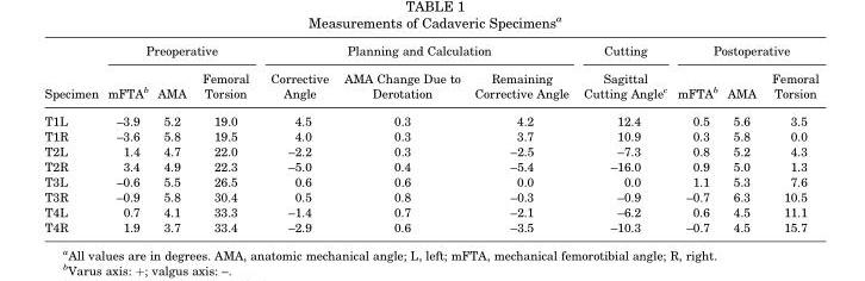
<table><thead><tr><td rowspan="2">Specimen</td><td colspan="3">Preoperative</td><td colspan="3">Planning and Calculation</td><td rowspan="2">Cutting Sagittal Cutting Angle<sup>c</sup></td><td colspan="3">Postoperative</td></tr><tr><td>mFTA<sup>b</sup></td><td>AMA</td><td>Femoral Torsion</td><td>Corrective Angle</td><td>AMA Change Due to Derotation</td><td>Remaining Corrective Angle</td><td>mFTA<sup>b</sup></td><td>AMA</td><td>Femoral Torsion</td></tr></thead><tbody><tr><td>T1L</td><td>–3.9</td><td>5.2</td><td>19.0</td><td>4.5</td><td>0.3</td><td>4.2</td><td>12.4</td><td>0.5</td><td>5.6</td><td>3.5</td></tr><tr><td>T1R</td><td>–3.6</td><td>5.8</td><td>19.5</td><td>4.0</td><td>0.3</td><td>3.7</td><td>10.9</td><td>0.3</td><td>5.8</td><td>0.0</td></tr><tr><td>T2L</td><td>1.4</td><td>4.7</td><td>22.0</td><td>–2.2</td><td>0.3</td><td>–2.5</td><td>–7.3</td><td>0.8</td><td>5.2</td><td>4.3</td></tr><tr><td>T2R</td><td>3.4</td><td>4.9</td><td>22.3</td><td>–5.0</td><td>0.4</td><td>–5.4</td><td>–16.0</td><td>0.9</td><td>5.0</td><td>1.3</td></tr><tr><td>T3L</td><td>–0.6</td><td>5.5</td><td>26.5</td><td>0.6</td><td>0.6</td><td>0.0</td><td>0.0</td><td>1.1</td><td>5.3</td><td>7.6</td></tr><tr><td>T3R</td><td>–0.9</td><td>5.8</td><td>30.4</td><td>0.5</td><td>0.8</td><td>–0.3</td><td>–0.9</td><td>–0.7</td><td>6.3</td><td>10.5</td></tr><tr><td>T4L</td><td>0.7</td><td>4.1</td><td>33.3</td><td>–1.4</td><td>0.7</td><td>–2.1</td><td>–6.2</td><td>0.6</td><td>4.5</td><td>11.1</td></tr><tr><td>T4R</td><td>1.9</td><td>3.7</td><td>33.4</td><td>–2.9</td><td>0.6</td><td>–3.5</td><td>–10.3</td><td>–0.7</td><td>4.5</td><td>15.7</td></tr></tbody></table>